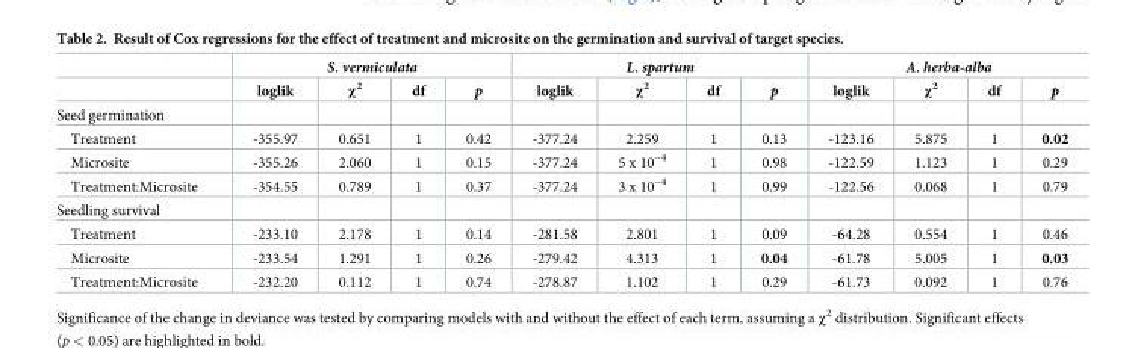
<table><thead><tr><td rowspan="2"></td><td colspan="4">S. vermiculata</td><td colspan="4">L. spartum</td><td colspan="4">A. herba-alba</td></tr><tr><td>loglik</td><td>χ<sup>2</sup></td><td>df</td><td>p</td><td>loglik</td><td>χ<sup>2</sup></td><td>df</td><td>p</td><td>loglik</td><td>χ<sup>2</sup></td><td>df</td><td>p</td></tr></thead><tbody><tr><td colspan="13">Seed germination</td></tr><tr><td>Treatment</td><td>-355.97</td><td>0.651</td><td>1</td><td>0.42</td><td>-377.24</td><td>2.259</td><td>1</td><td>0.13</td><td>-123.16</td><td>5.875</td><td>1</td><td>0.02</td></tr><tr><td>Microsite</td><td>-355.26</td><td>2.060</td><td>1</td><td>0.15</td><td>-377.24</td><td>5 x 10<sup>−4</sup></td><td>1</td><td>0.98</td><td>-122.59</td><td>1.123</td><td>1</td><td>0.29</td></tr><tr><td>Treatment:Microsite</td><td>-354.55</td><td>0.789</td><td>1</td><td>0.37</td><td>-377.24</td><td>3 x 10<sup>−4</sup></td><td>1</td><td>0.99</td><td>-122.56</td><td>0.068</td><td>1</td><td>0.79</td></tr><tr><td colspan="13">Seedling survival</td></tr><tr><td>Treatment</td><td>-233.10</td><td>2.178</td><td>1</td><td>0.14</td><td>-281.58</td><td>2.801</td><td>1</td><td>0.09</td><td>-64.28</td><td>0.554</td><td>1</td><td>0.46</td></tr><tr><td>Microsite</td><td>-233.54</td><td>1.291</td><td>1</td><td>0.26</td><td>-279.42</td><td>4.313</td><td>1</td><td>0.04</td><td>-61.78</td><td>5.005</td><td>1</td><td>0.03</td></tr><tr><td>Treatment:Microsite</td><td>-232.20</td><td>0.112</td><td>1</td><td>0.74</td><td>-278.87</td><td>1.102</td><td>1</td><td>0.29</td><td>-61.73</td><td>0.092</td><td>1</td><td>0.76</td></tr></tbody></table>